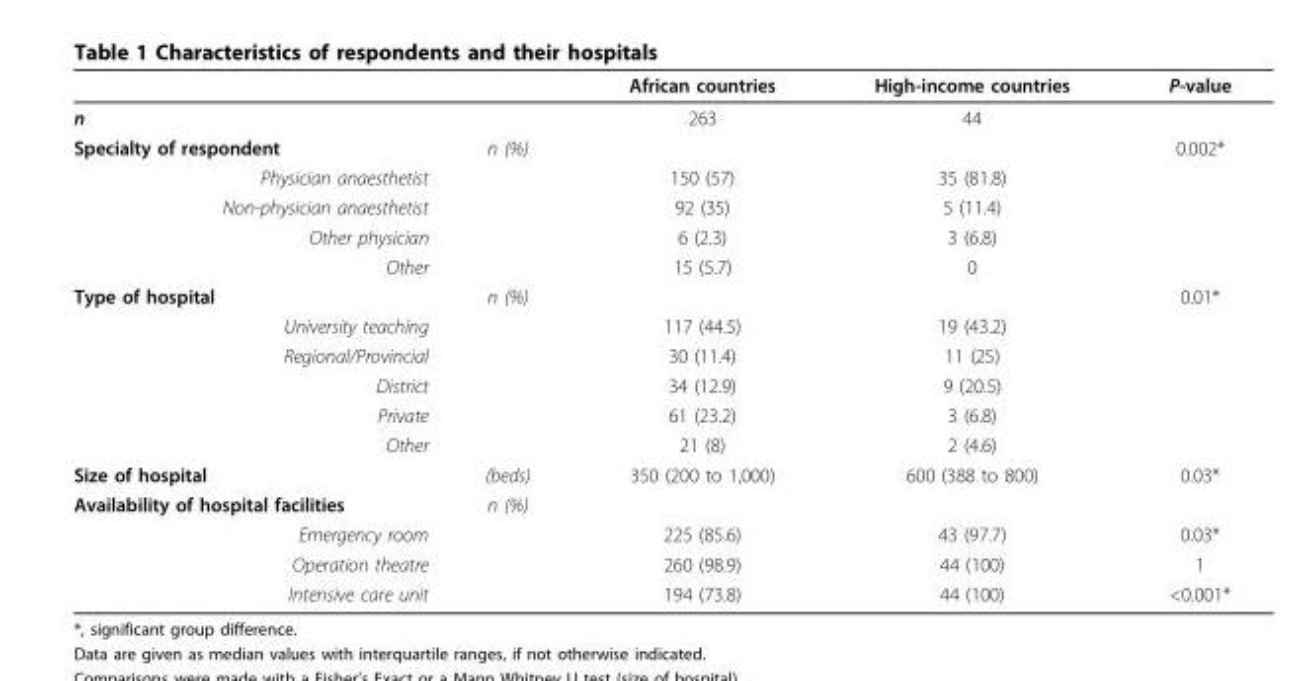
<table><thead><tr><td></td><td></td><td>African countries</td><td>High-income countries</td><td>P-value</td></tr></thead><tbody><tr><td>n</td><td></td><td>263</td><td>44</td><td></td></tr><tr><td>Specialty of respondent</td><td>n (%)</td><td></td><td></td><td>0.002*</td></tr><tr><td>Physician anaesthetist</td><td></td><td>150 (57)</td><td>35 (81.8)</td><td></td></tr><tr><td>Non-physician anaesthetist</td><td></td><td>92 (35)</td><td>5 (11.4)</td><td></td></tr><tr><td>Other physician</td><td></td><td>6 (2.3)</td><td>3 (6.8)</td><td></td></tr><tr><td>Other</td><td></td><td>15 (5.7)</td><td>0</td><td></td></tr><tr><td>Type of hospital</td><td>n (%)</td><td></td><td></td><td>0.01*</td></tr><tr><td>University teaching</td><td></td><td>117 (44.5)</td><td>19 (43.2)</td><td></td></tr><tr><td>Regional/Provincial</td><td></td><td>30 (11.4)</td><td>11 (25)</td><td></td></tr><tr><td>District</td><td></td><td>34 (12.9)</td><td>9 (20.5)</td><td></td></tr><tr><td>Private</td><td></td><td>61 (23.2)</td><td>3 (6.8)</td><td></td></tr><tr><td>Other</td><td></td><td>21 (8)</td><td>2 (4.6)</td><td></td></tr><tr><td>Size of hospital</td><td>(beds)</td><td>350 (200 to 1,000)</td><td>600 (388 to 800)</td><td>0.03*</td></tr><tr><td>Availability of hospital facilities</td><td>n (%)</td><td></td><td></td><td></td></tr><tr><td>Emergency room</td><td></td><td>225 (85.6)</td><td>43 (97.7)</td><td>0.03*</td></tr><tr><td>Operation theatre</td><td></td><td>260 (98.9)</td><td>44 (100)</td><td>1</td></tr><tr><td>Intensive care unit</td><td></td><td>194 (73.8)</td><td>44 (100)</td><td>&lt;0.001*</td></tr></tbody></table>